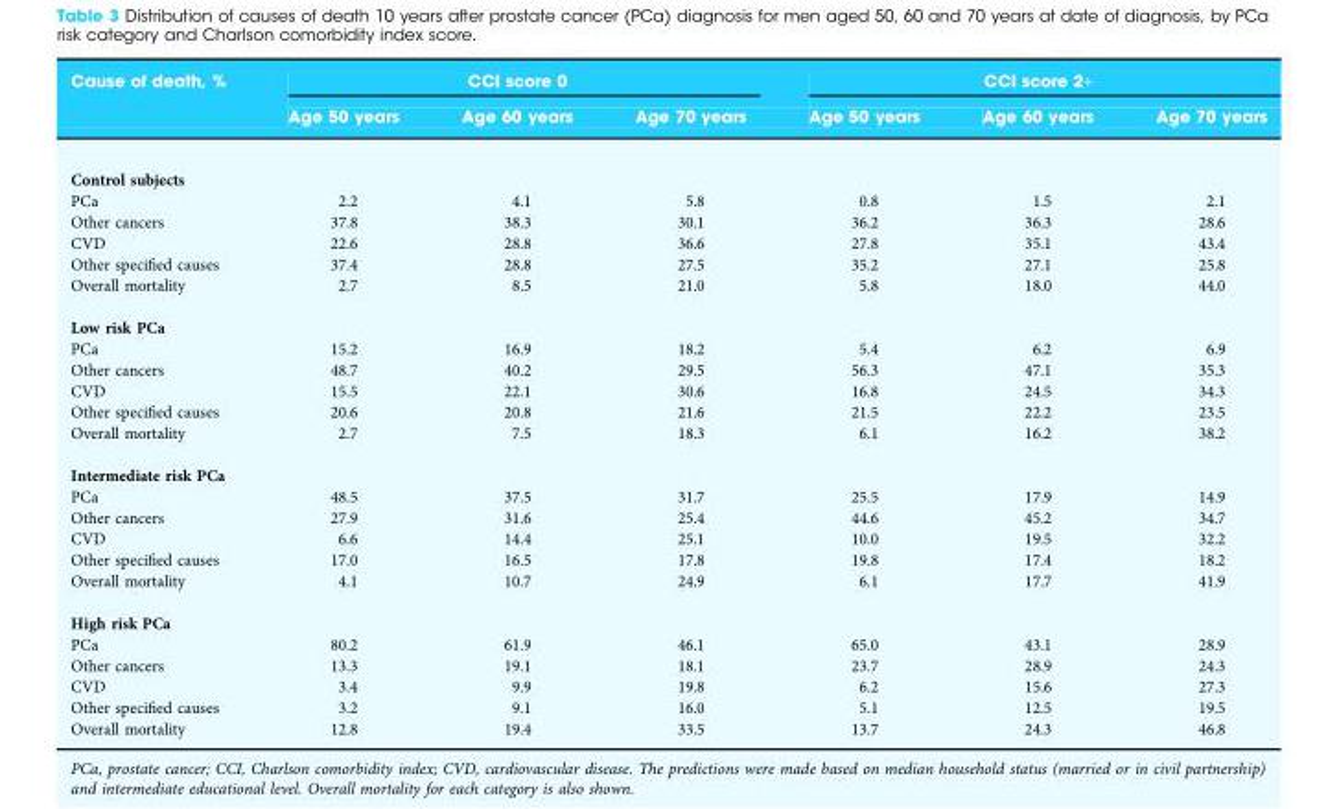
<table><thead><tr><td rowspan="2">Cause of death, %</td><td colspan="3">CCI score 0</td><td colspan="3">CCI score 2+</td></tr><tr><td>Age 50 years</td><td>Age 60 years</td><td>Age 70 years</td><td>Age 50 years</td><td>Age 60 years</td><td>Age 70 years</td></tr></thead><tbody><tr><td colspan="7">Control subjects</td></tr><tr><td>PCa</td><td>2.2</td><td>4.1</td><td>5.8</td><td>0.8</td><td>1.5</td><td>2.1</td></tr><tr><td>Other cancers</td><td>37.8</td><td>38.3</td><td>30.1</td><td>36.2</td><td>36.3</td><td>28.6</td></tr><tr><td>CVD</td><td>22.6</td><td>28.8</td><td>36.6</td><td>27.8</td><td>35.1</td><td>43.4</td></tr><tr><td>Other specified causes</td><td>37.4</td><td>28.8</td><td>27.5</td><td>35.2</td><td>27.1</td><td>25.8</td></tr><tr><td>Overall mortality</td><td>2.7</td><td>8.5</td><td>21.0</td><td>5.8</td><td>18.0</td><td>44.0</td></tr><tr><td colspan="7">Low risk PCa</td></tr><tr><td>PCa</td><td>15.2</td><td>16.9</td><td>18.2</td><td>5.4</td><td>6.2</td><td>6.9</td></tr><tr><td>Other cancers</td><td>48.7</td><td>40.2</td><td>29.5</td><td>56.3</td><td>47.1</td><td>35.3</td></tr><tr><td>CVD</td><td>15.5</td><td>22.1</td><td>30.6</td><td>16.8</td><td>24.5</td><td>34.3</td></tr><tr><td>Other specified causes</td><td>20.6</td><td>20.8</td><td>21.6</td><td>21.5</td><td>22.2</td><td>23.5</td></tr><tr><td>Overall mortality</td><td>2.7</td><td>7.5</td><td>18.3</td><td>6.1</td><td>16.2</td><td>38.2</td></tr><tr><td colspan="7">Intermediate risk PCa</td></tr><tr><td>PCa</td><td>48.5</td><td>37.5</td><td>31.7</td><td>25.5</td><td>17.9</td><td>14.9</td></tr><tr><td>Other cancers</td><td>27.9</td><td>31.6</td><td>25.4</td><td>44.6</td><td>45.2</td><td>34.7</td></tr><tr><td>CVD</td><td>6.6</td><td>14.4</td><td>25.1</td><td>10.0</td><td>19.5</td><td>32.2</td></tr><tr><td>Other specified causes</td><td>17.0</td><td>16.5</td><td>17.8</td><td>19.8</td><td>17.4</td><td>18.2</td></tr><tr><td>Overall mortality</td><td>4.1</td><td>10.7</td><td>24.9</td><td>6.1</td><td>17.7</td><td>41.9</td></tr><tr><td colspan="7">High risk PCa</td></tr><tr><td>PCa</td><td>80.2</td><td>61.9</td><td>46.1</td><td>65.0</td><td>43.1</td><td>28.9</td></tr><tr><td>Other cancers</td><td>13.3</td><td>19.1</td><td>18.1</td><td>23.7</td><td>28.9</td><td>24.3</td></tr><tr><td>CVD</td><td>3.4</td><td>9.9</td><td>19.8</td><td>6.2</td><td>15.6</td><td>27.3</td></tr><tr><td>Other specified causes</td><td>3.2</td><td>9.1</td><td>16.0</td><td>5.1</td><td>12.5</td><td>19.5</td></tr><tr><td>Overall mortality</td><td>12.8</td><td>19.4</td><td>33.5</td><td>13.7</td><td>24.3</td><td>46.8</td></tr></tbody></table>